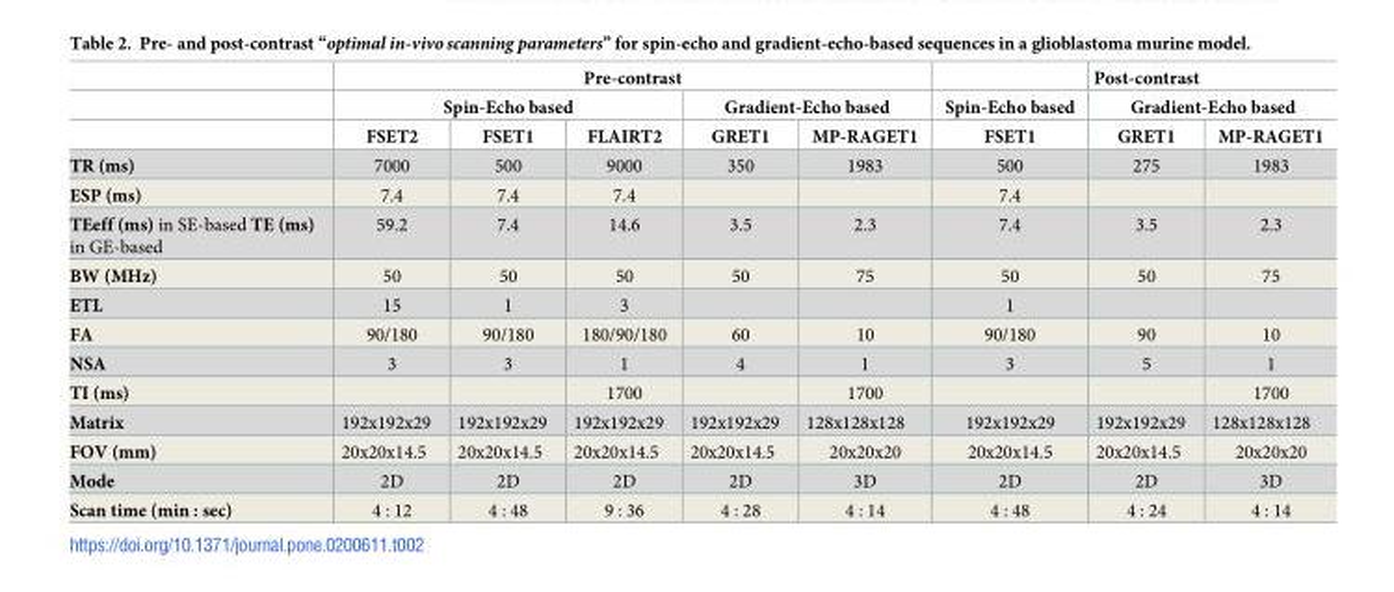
<table><thead><tr><td rowspan="3"></td><td colspan="5">Pre-contrast</td><td rowspan="3">Spin-Echo based FSET1</td><td rowspan="2" colspan="2">Post-contrast Gradient-Echo based</td></tr><tr><td colspan="3">Spin-Echo based</td><td colspan="2">Gradient-Echo based</td></tr><tr><td>FSET2</td><td>FSET1</td><td>FLAIRT2</td><td>GRET1</td><td>MP-RAGET1</td><td>GRET1</td><td>MP-RAGET1</td></tr></thead><tbody><tr><td>TR (ms)</td><td>7000</td><td>500</td><td>9000</td><td>350</td><td>1983</td><td>500</td><td>275</td><td>1983</td></tr><tr><td>ESP (ms)</td><td>7.4</td><td>7.4</td><td>7.4</td><td></td><td></td><td>7.4</td><td></td><td></td></tr><tr><td>TEeff (ms) in SE-based TE (ms) in GE-based</td><td>59.2</td><td>7.4</td><td>14.6</td><td>3.5</td><td>2.3</td><td>7.4</td><td>3.5</td><td>2.3</td></tr><tr><td>BW (MHz)</td><td>50</td><td>50</td><td>50</td><td>50</td><td>75</td><td>50</td><td>50</td><td>75</td></tr><tr><td>ETL</td><td>15</td><td>1</td><td>3</td><td></td><td></td><td>1</td><td></td><td></td></tr><tr><td>FA</td><td>90/180</td><td>90/180</td><td>180/90/180</td><td>60</td><td>10</td><td>90/180</td><td>90</td><td>10</td></tr><tr><td>NSA</td><td>3</td><td>3</td><td>1</td><td>4</td><td>1</td><td>3</td><td>5</td><td>1</td></tr><tr><td>TI (ms)</td><td></td><td></td><td>1700</td><td></td><td>1700</td><td></td><td></td><td>1700</td></tr><tr><td>Matrix</td><td>192x192x29</td><td>192x192x29</td><td>192x192x29</td><td>192x192x29</td><td>128x128x128</td><td>192x192x29</td><td>192x192x29</td><td>128x128x128</td></tr><tr><td>FOV (mm)</td><td>20x20x14.5</td><td>20x20x14.5</td><td>20x20x14.5</td><td>20x20x14.5</td><td>20x20x20</td><td>20x20x14.5</td><td>20x20x14.5</td><td>20x20x20</td></tr><tr><td>Mode</td><td>2D</td><td>2D</td><td>2D</td><td>2D</td><td>3D</td><td>2D</td><td>2D</td><td>3D</td></tr><tr><td>Scan time (min : sec)</td><td>4 : 12</td><td>4 : 48</td><td>9 : 36</td><td>4 : 28</td><td>4 : 14</td><td>4 : 48</td><td>4 : 24</td><td>4 : 14</td></tr></tbody></table>